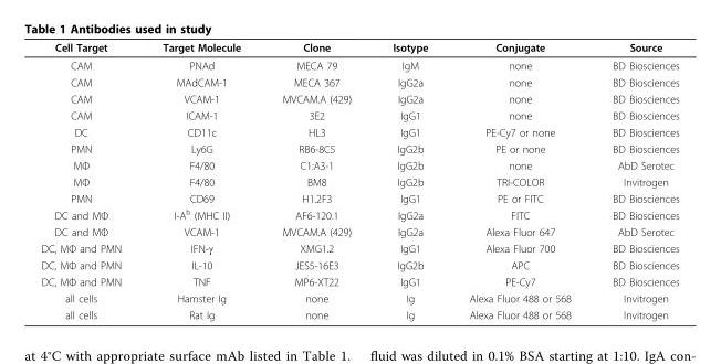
<table><thead><tr><td>Cell Target</td><td>Target Molecule</td><td>Clone</td><td>Isotype</td><td>Conjugate</td><td>Source</td></tr></thead><tbody><tr><td>CAM</td><td>PNAd</td><td>MECA 79</td><td>IgM</td><td>none</td><td>BD Biosciences</td></tr><tr><td>CAM</td><td>MAdCAM-1</td><td>MECA 367</td><td>IgG2a</td><td>none</td><td>BD Biosciences</td></tr><tr><td>CAM</td><td>VCAM-1</td><td>MVCAM.A (429)</td><td>IgG2a</td><td>none</td><td>BD Biosciences</td></tr><tr><td>CAM</td><td>ICAM-1</td><td>3E2</td><td>IgG1</td><td>none</td><td>BD Biosciences</td></tr><tr><td>DC</td><td>CD11c</td><td>HL3</td><td>IgG1</td><td>PE-Cy7 or none</td><td>BD Biosciences</td></tr><tr><td>PMN</td><td>Ly6G</td><td>RB6-8C5</td><td>IgG2b</td><td>PE or none</td><td>BD Biosciences</td></tr><tr><td>MФ</td><td>F4/80</td><td>C1:A3-1</td><td>IgG2b</td><td>none</td><td>AbD Serotec</td></tr><tr><td>MФ</td><td>F4/80</td><td>BM8</td><td>IgG2b</td><td>TRI-COLOR</td><td>Invitrogen</td></tr><tr><td>PMN</td><td>CD69</td><td>H1.2F3</td><td>IgG1</td><td>PE or FITC</td><td>BD Biosciences</td></tr><tr><td>DC and MФ</td><td>I-A<sup>b</sup> (MHC II)</td><td>AF6-120.1</td><td>IgG2a</td><td>FITC</td><td>BD Biosciences</td></tr><tr><td>DC and MФ</td><td>VCAM-1</td><td>MVCAM.A (429)</td><td>IgG2a</td><td>Alexa Fluor 647</td><td>AbD Serotec</td></tr><tr><td>DC, MФ and PMN</td><td>IFN-γ</td><td>XMG1.2</td><td>IgG1</td><td>Alexa Fluor 700</td><td>BD Biosciences</td></tr><tr><td>DC, MФ and PMN</td><td>IL-10</td><td>JES5-16E3</td><td>IgG2b</td><td>APC</td><td>BD Biosciences</td></tr><tr><td>DC, MФ and PMN</td><td>TNF</td><td>MP6-XT22</td><td>IgG1</td><td>PE-Cy7</td><td>BD Biosciences</td></tr><tr><td>all cells</td><td>Hamster Ig</td><td>none</td><td>Ig</td><td>Alexa Fluor 488 or 568</td><td>Invitrogen</td></tr><tr><td>all cells</td><td>Rat Ig</td><td>none</td><td>Ig</td><td>Alexa Fluor 488 or 568</td><td>Invitrogen</td></tr></tbody></table>